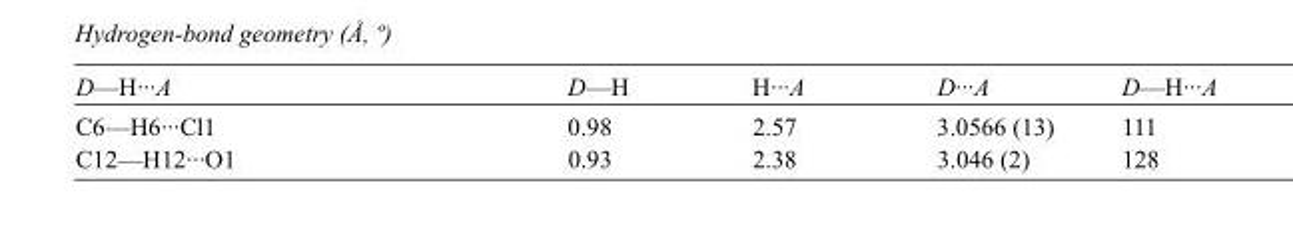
<table><tbody><tr><td>D—H···A</td><td>D—H</td><td>H···A</td><td>D···A</td><td>D—H···A</td></tr><tr><td>C6—H6···Cl1</td><td>0.98</td><td>2.57</td><td>3.0566 (13)</td><td>111</td></tr><tr><td>C12—H12···O1</td><td>0.93</td><td>2.38</td><td>3.046 (2)</td><td>128</td></tr></tbody></table>